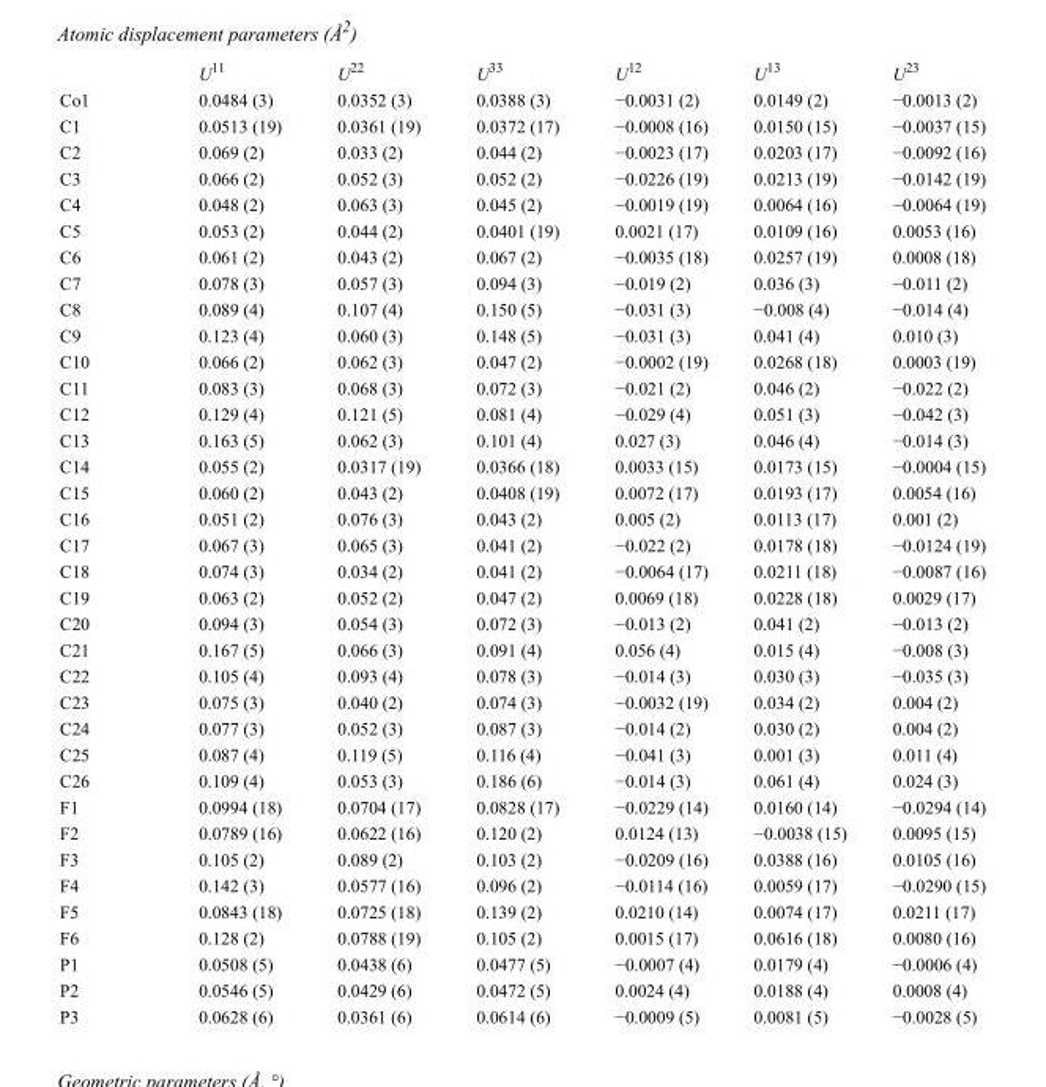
<table><thead><tr><td></td><td>U<sup>11</sup></td><td>U<sup>22</sup></td><td>U<sup>33</sup></td><td>U<sup>12</sup></td><td>U<sup>13</sup></td><td>U<sup>23</sup></td></tr></thead><tbody><tr><td>Co1</td><td>0.0484 (3)</td><td>0.0352 (3)</td><td>0.0388 (3)</td><td>−0.0031 (2)</td><td>0.0149 (2)</td><td>−0.0013 (2)</td></tr><tr><td>C1</td><td>0.0513 (19)</td><td>0.0361 (19)</td><td>0.0372 (17)</td><td>−0.0008 (16)</td><td>0.0150 (15)</td><td>−0.0037 (15)</td></tr><tr><td>C2</td><td>0.069 (2)</td><td>0.033 (2)</td><td>0.044 (2)</td><td>−0.0023 (17)</td><td>0.0203 (17)</td><td>−0.0092 (16)</td></tr><tr><td>C3</td><td>0.066 (2)</td><td>0.052 (3)</td><td>0.052 (2)</td><td>−0.0226 (19)</td><td>0.0213 (19)</td><td>−0.0142 (19)</td></tr><tr><td>C4</td><td>0.048 (2)</td><td>0.063 (3)</td><td>0.045 (2)</td><td>−0.0019 (19)</td><td>0.0064 (16)</td><td>−0.0064 (19)</td></tr><tr><td>C5</td><td>0.053 (2)</td><td>0.044 (2)</td><td>0.0401 (19)</td><td>0.0021 (17)</td><td>0.0109 (16)</td><td>0.0053 (16)</td></tr><tr><td>C6</td><td>0.061 (2)</td><td>0.043 (2)</td><td>0.067 (2)</td><td>−0.0035 (18)</td><td>0.0257 (19)</td><td>0.0008 (18)</td></tr><tr><td>C7</td><td>0.078 (3)</td><td>0.057 (3)</td><td>0.094 (3)</td><td>−0.019 (2)</td><td>0.036 (3)</td><td>−0.011 (2)</td></tr><tr><td>C8</td><td>0.089 (4)</td><td>0.107 (4)</td><td>0.150 (5)</td><td>−0.031 (3)</td><td>−0.008 (4)</td><td>−0.014 (4)</td></tr><tr><td>C9</td><td>0.123 (4)</td><td>0.060 (3)</td><td>0.148 (5)</td><td>−0.031 (3)</td><td>0.041 (4)</td><td>0.010 (3)</td></tr><tr><td>C10</td><td>0.066 (2)</td><td>0.062 (3)</td><td>0.047 (2)</td><td>−0.0002 (19)</td><td>0.0268 (18)</td><td>0.0003 (19)</td></tr><tr><td>C11</td><td>0.083 (3)</td><td>0.068 (3)</td><td>0.072 (3)</td><td>−0.021 (2)</td><td>0.046 (2)</td><td>−0.022 (2)</td></tr><tr><td>C12</td><td>0.129 (4)</td><td>0.121 (5)</td><td>0.081 (4)</td><td>−0.029 (4)</td><td>0.051 (3)</td><td>−0.042 (3)</td></tr><tr><td>C13</td><td>0.163 (5)</td><td>0.062 (3)</td><td>0.101 (4)</td><td>0.027 (3)</td><td>0.046 (4)</td><td>−0.014 (3)</td></tr><tr><td>C14</td><td>0.055 (2)</td><td>0.0317 (19)</td><td>0.0366 (18)</td><td>0.0033 (15)</td><td>0.0173 (15)</td><td>−0.0004 (15)</td></tr><tr><td>C15</td><td>0.060 (2)</td><td>0.043 (2)</td><td>0.0408 (19)</td><td>0.0072 (17)</td><td>0.0193 (17)</td><td>0.0054 (16)</td></tr><tr><td>C16</td><td>0.051 (2)</td><td>0.076 (3)</td><td>0.043 (2)</td><td>0.005 (2)</td><td>0.0113 (17)</td><td>0.001 (2)</td></tr><tr><td>C17</td><td>0.067 (3)</td><td>0.065 (3)</td><td>0.041 (2)</td><td>−0.022 (2)</td><td>0.0178 (18)</td><td>−0.0124 (19)</td></tr><tr><td>C18</td><td>0.074 (3)</td><td>0.034 (2)</td><td>0.041 (2)</td><td>−0.0064 (17)</td><td>0.0211 (18)</td><td>−0.0087 (16)</td></tr><tr><td>C19</td><td>0.063 (2)</td><td>0.052 (2)</td><td>0.047 (2)</td><td>0.0069 (18)</td><td>0.0228 (18)</td><td>0.0029 (17)</td></tr><tr><td>C20</td><td>0.094 (3)</td><td>0.054 (3)</td><td>0.072 (3)</td><td>−0.013 (2)</td><td>0.041 (2)</td><td>−0.013 (2)</td></tr><tr><td>C21</td><td>0.167 (5)</td><td>0.066 (3)</td><td>0.091 (4)</td><td>0.056 (4)</td><td>0.015 (4)</td><td>−0.008 (3)</td></tr><tr><td>C22</td><td>0.105 (4)</td><td>0.093 (4)</td><td>0.078 (3)</td><td>−0.014 (3)</td><td>0.030 (3)</td><td>−0.035 (3)</td></tr><tr><td>C23</td><td>0.075 (3)</td><td>0.040 (2)</td><td>0.074 (3)</td><td>−0.0032 (19)</td><td>0.034 (2)</td><td>0.004 (2)</td></tr><tr><td>C24</td><td>0.077 (3)</td><td>0.052 (3)</td><td>0.087 (3)</td><td>−0.014 (2)</td><td>0.030 (2)</td><td>0.004 (2)</td></tr><tr><td>C25</td><td>0.087 (4)</td><td>0.119 (5)</td><td>0.116 (4)</td><td>−0.041 (3)</td><td>0.001 (3)</td><td>0.011 (4)</td></tr><tr><td>C26</td><td>0.109 (4)</td><td>0.053 (3)</td><td>0.186 (6)</td><td>−0.014 (3)</td><td>0.061 (4)</td><td>0.024 (3)</td></tr><tr><td>F1</td><td>0.0994 (18)</td><td>0.0704 (17)</td><td>0.0828 (17)</td><td>−0.0229 (14)</td><td>0.0160 (14)</td><td>−0.0294 (14)</td></tr><tr><td>F2</td><td>0.0789 (16)</td><td>0.0622 (16)</td><td>0.120 (2)</td><td>0.0124 (13)</td><td>−0.0038 (15)</td><td>0.0095 (15)</td></tr><tr><td>F3</td><td>0.105 (2)</td><td>0.089 (2)</td><td>0.103 (2)</td><td>−0.0209 (16)</td><td>0.0388 (16)</td><td>0.0105 (16)</td></tr><tr><td>F4</td><td>0.142 (3)</td><td>0.0577 (16)</td><td>0.096 (2)</td><td>−0.0114 (16)</td><td>0.0059 (17)</td><td>−0.0290 (15)</td></tr><tr><td>F5</td><td>0.0843 (18)</td><td>0.0725 (18)</td><td>0.139 (2)</td><td>0.0210 (14)</td><td>0.0074 (17)</td><td>0.0211 (17)</td></tr><tr><td>F6</td><td>0.128 (2)</td><td>0.0788 (19)</td><td>0.105 (2)</td><td>0.0015 (17)</td><td>0.0616 (18)</td><td>0.0080 (16)</td></tr><tr><td>P1</td><td>0.0508 (5)</td><td>0.0438 (6)</td><td>0.0477 (5)</td><td>−0.0007 (4)</td><td>0.0179 (4)</td><td>−0.0006 (4)</td></tr><tr><td>P2</td><td>0.0546 (5)</td><td>0.0429 (6)</td><td>0.0472 (5)</td><td>0.0024 (4)</td><td>0.0188 (4)</td><td>0.0008 (4)</td></tr><tr><td>P3</td><td>0.0628 (6)</td><td>0.0361 (6)</td><td>0.0614 (6)</td><td>−0.0009 (5)</td><td>0.0081 (5)</td><td>−0.0028 (5)</td></tr></tbody></table>